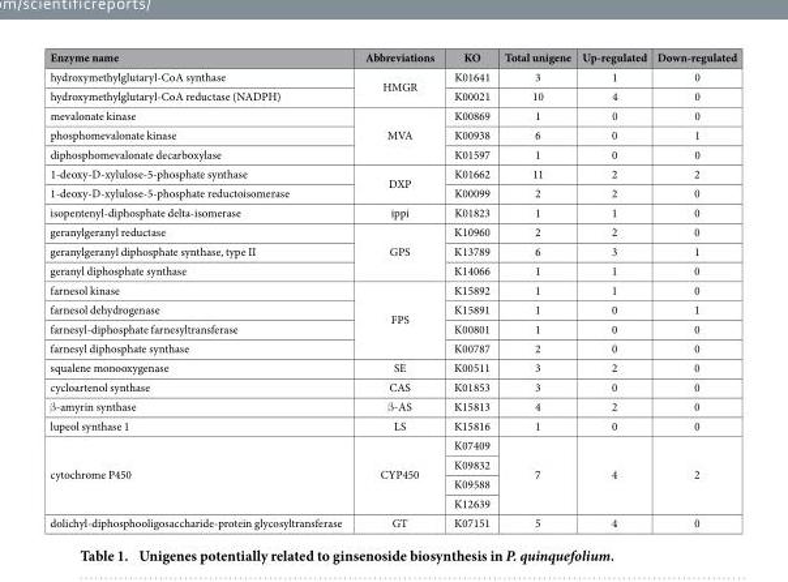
<table><thead><tr><td>Enzyme name</td><td>Abbreviations</td><td>KO</td><td>Total unigene</td><td>Up-regulated</td><td>Down-regulated</td></tr></thead><tbody><tr><td>hydroxymethylglutaryl-CoA synthase</td><td rowspan="2">HMGR</td><td>K01641</td><td>3</td><td>1</td><td>0</td></tr><tr><td>hydroxymethylglutaryl-CoA reductase (NADPH)</td><td>K00021</td><td>10</td><td>4</td><td>0</td></tr><tr><td>mevalonate kinase</td><td rowspan="3">MVA</td><td>K00869</td><td>1</td><td>0</td><td>0</td></tr><tr><td>phosphomevalonate kinase</td><td>K00938</td><td>6</td><td>0</td><td>1</td></tr><tr><td>diphosphomevalonate decarboxylase</td><td>K01597</td><td>1</td><td>0</td><td>0</td></tr><tr><td>1-deoxy-D-xylulose-5-phosphate synthase</td><td rowspan="2">DXP</td><td>K01662</td><td>11</td><td>2</td><td>2</td></tr><tr><td>1-deoxy-D-xylulose-5-phosphate reductoisomerase</td><td>K00099</td><td>2</td><td>2</td><td>0</td></tr><tr><td>isopentenyl-diphosphate delta-isomerase</td><td>ippi</td><td>K01823</td><td>1</td><td>1</td><td>0</td></tr><tr><td>geranylgeranyl reductase</td><td rowspan="3">GPS</td><td>K10960</td><td>2</td><td>2</td><td>0</td></tr><tr><td>geranylgeranyl diphosphate synthase, type II</td><td>K13789</td><td>6</td><td>3</td><td>1</td></tr><tr><td>geranyl diphosphate synthase</td><td>K14066</td><td>1</td><td>1</td><td>0</td></tr><tr><td>farnesol kinase</td><td rowspan="4">FPS</td><td>K15892</td><td>1</td><td>1</td><td>0</td></tr><tr><td>farnesol dehydrogenase</td><td>K15891</td><td>1</td><td>0</td><td>1</td></tr><tr><td>farnesyl-diphosphate farnesyltransferase</td><td>K00801</td><td>1</td><td>0</td><td>0</td></tr><tr><td>farnesyl diphosphate synthase</td><td>K00787</td><td>2</td><td>0</td><td>0</td></tr><tr><td>squalene monooxygenase</td><td>SE</td><td>K00511</td><td>3</td><td>2</td><td>0</td></tr><tr><td>cycloartenol synthase</td><td>CAS</td><td>K01853</td><td>3</td><td>0</td><td>0</td></tr><tr><td>β -amyrin synthase</td><td>β -AS</td><td>K15813</td><td>4</td><td>2</td><td>0</td></tr><tr><td>lupeol synthase 1</td><td>LS</td><td>K15816</td><td>1</td><td>0</td><td>0</td></tr><tr><td rowspan="4">cytochrome P450</td><td rowspan="4">CYP450</td><td>K07409</td><td rowspan="4">7</td><td rowspan="4">4</td><td rowspan="4">2</td></tr><tr><td>K09832</td></tr><tr><td>K09588</td></tr><tr><td>K12639</td></tr><tr><td>dolichyl-diphosphooligosaccharide-protein glycosyltransferase</td><td>GT</td><td>K07151</td><td>5</td><td>4</td><td>0</td></tr></tbody></table>